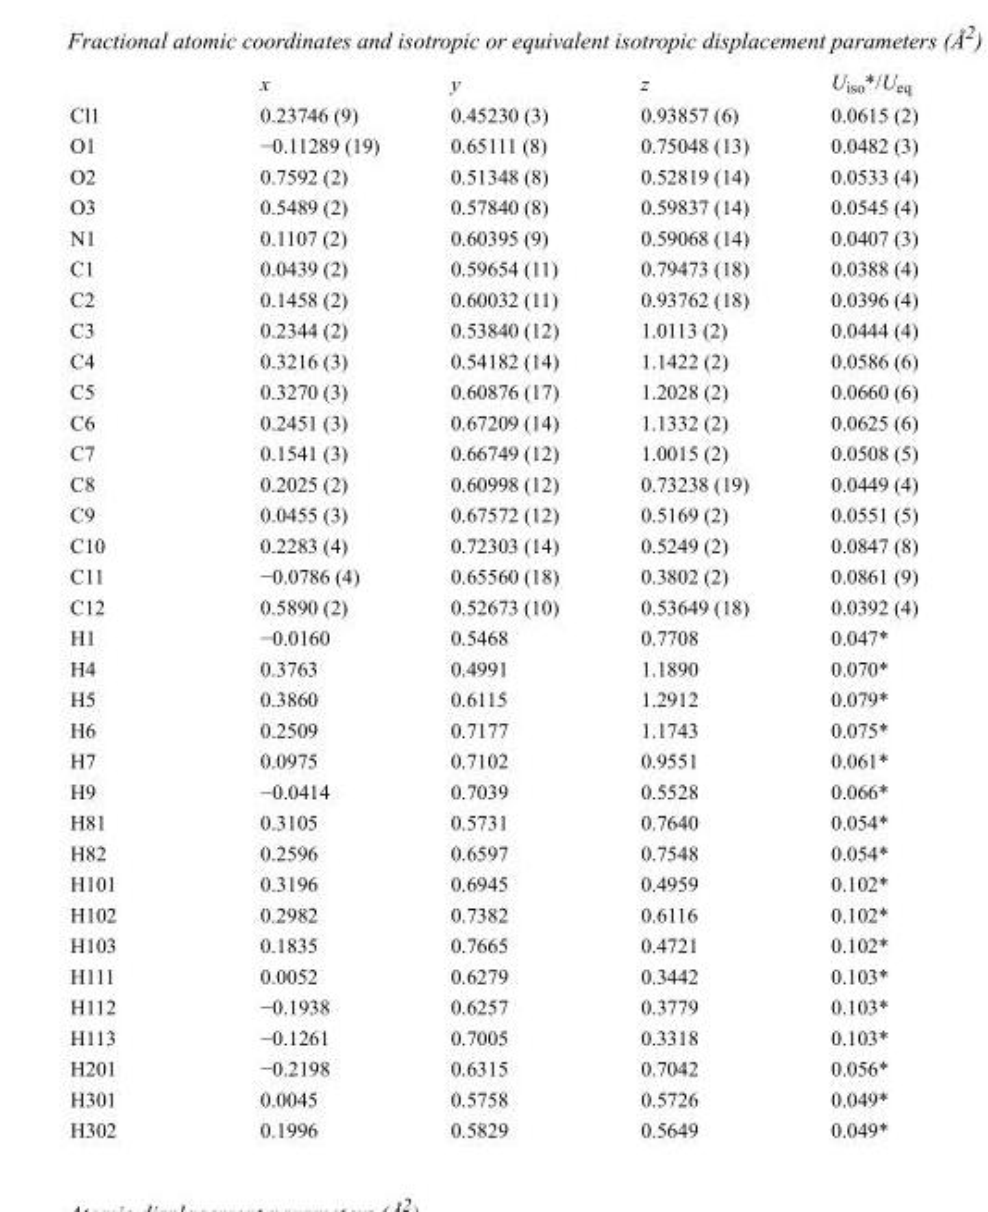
<table><thead><tr><td></td><td>x</td><td>y</td><td>z</td><td>U<sub>iso</sub>*/U<sub>eq</sub></td></tr></thead><tbody><tr><td>Cl1</td><td>0.23746 (9)</td><td>0.45230 (3)</td><td>0.93857 (6)</td><td>0.0615 (2)</td></tr><tr><td>O1</td><td>−0.11289 (19)</td><td>0.65111 (8)</td><td>0.75048 (13)</td><td>0.0482 (3)</td></tr><tr><td>O2</td><td>0.7592 (2)</td><td>0.51348 (8)</td><td>0.52819 (14)</td><td>0.0533 (4)</td></tr><tr><td>O3</td><td>0.5489 (2)</td><td>0.57840 (8)</td><td>0.59837 (14)</td><td>0.0545 (4)</td></tr><tr><td>N1</td><td>0.1107 (2)</td><td>0.60395 (9)</td><td>0.59068 (14)</td><td>0.0407 (3)</td></tr><tr><td>C1</td><td>0.0439 (2)</td><td>0.59654 (11)</td><td>0.79473 (18)</td><td>0.0388 (4)</td></tr><tr><td>C2</td><td>0.1458 (2)</td><td>0.60032 (11)</td><td>0.93762 (18)</td><td>0.0396 (4)</td></tr><tr><td>C3</td><td>0.2344 (2)</td><td>0.53840 (12)</td><td>1.0113 (2)</td><td>0.0444 (4)</td></tr><tr><td>C4</td><td>0.3216 (3)</td><td>0.54182 (14)</td><td>1.1422 (2)</td><td>0.0586 (6)</td></tr><tr><td>C5</td><td>0.3270 (3)</td><td>0.60876 (17)</td><td>1.2028 (2)</td><td>0.0660 (6)</td></tr><tr><td>C6</td><td>0.2451 (3)</td><td>0.67209 (14)</td><td>1.1332 (2)</td><td>0.0625 (6)</td></tr><tr><td>C7</td><td>0.1541 (3)</td><td>0.66749 (12)</td><td>1.0015 (2)</td><td>0.0508 (5)</td></tr><tr><td>C8</td><td>0.2025 (2)</td><td>0.60998 (12)</td><td>0.73238 (19)</td><td>0.0449 (4)</td></tr><tr><td>C9</td><td>0.0455 (3)</td><td>0.67572 (12)</td><td>0.5169 (2)</td><td>0.0551 (5)</td></tr><tr><td>C10</td><td>0.2283 (4)</td><td>0.72303 (14)</td><td>0.5249 (2)</td><td>0.0847 (8)</td></tr><tr><td>C11</td><td>−0.0786 (4)</td><td>0.65560 (18)</td><td>0.3802 (2)</td><td>0.0861 (9)</td></tr><tr><td>C12</td><td>0.5890 (2)</td><td>0.52673 (10)</td><td>0.53649 (18)</td><td>0.0392 (4)</td></tr><tr><td>H1</td><td>−0.0160</td><td>0.5468</td><td>0.7708</td><td>0.047*</td></tr><tr><td>H4</td><td>0.3763</td><td>0.4991</td><td>1.1890</td><td>0.070*</td></tr><tr><td>H5</td><td>0.3860</td><td>0.6115</td><td>1.2912</td><td>0.079*</td></tr><tr><td>H6</td><td>0.2509</td><td>0.7177</td><td>1.1743</td><td>0.075*</td></tr><tr><td>H7</td><td>0.0975</td><td>0.7102</td><td>0.9551</td><td>0.061*</td></tr><tr><td>H9</td><td>−0.0414</td><td>0.7039</td><td>0.5528</td><td>0.066*</td></tr><tr><td>H81</td><td>0.3105</td><td>0.5731</td><td>0.7640</td><td>0.054*</td></tr><tr><td>H82</td><td>0.2596</td><td>0.6597</td><td>0.7548</td><td>0.054*</td></tr><tr><td>H101</td><td>0.3196</td><td>0.6945</td><td>0.4959</td><td>0.102*</td></tr><tr><td>H102</td><td>0.2982</td><td>0.7382</td><td>0.6116</td><td>0.102*</td></tr><tr><td>H103</td><td>0.1835</td><td>0.7665</td><td>0.4721</td><td>0.102*</td></tr><tr><td>H111</td><td>0.0052</td><td>0.6279</td><td>0.3442</td><td>0.103*</td></tr><tr><td>H112</td><td>−0.1938</td><td>0.6257</td><td>0.3779</td><td>0.103*</td></tr><tr><td>H113</td><td>−0.1261</td><td>0.7005</td><td>0.3318</td><td>0.103*</td></tr><tr><td>H201</td><td>−0.2198</td><td>0.6315</td><td>0.7042</td><td>0.056*</td></tr><tr><td>H301</td><td>0.0045</td><td>0.5758</td><td>0.5726</td><td>0.049*</td></tr><tr><td>H302</td><td>0.1996</td><td>0.5829</td><td>0.5649</td><td>0.049*</td></tr></tbody></table>